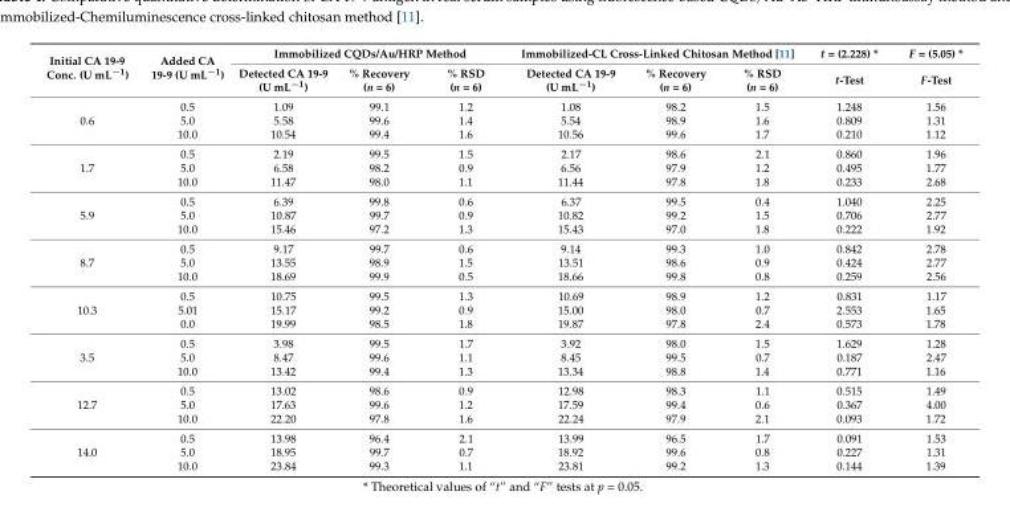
<table><thead><tr><td rowspan="2">Initial CA 19-9 Conc. (U mL−1)</td><td rowspan="2">Added CA 19-9 (U mL−1)</td><td colspan="3">Immobilized CQDs/Au/HRP Method</td><td colspan="3">Immobilized-CL Cross-Linked Chitosan Method [11]</td><td rowspan="2">t = (2.228) * t-Test</td><td rowspan="2">F = (5.05) * F-Test</td></tr><tr><td>Detected CA 19-9 (U mL−1)</td><td>% Recovery (n = 6)</td><td>% RSD (n = 6)</td><td>Detected CA 19-9 (U mL−1)</td><td>% Recovery (n = 6)</td><td>% RSD (n = 6)</td></tr></thead><tbody><tr><td>0.6</td><td>0.5 5.0 10.0</td><td>1.09 5.58 10.54</td><td>99.1 99.6 99.4</td><td>1.2 1.4 1.6</td><td>1.08 5.54 10.56</td><td>98.2 98.9 99.6</td><td>1.5 1.6 1.7</td><td>1.248 0.809 0.210</td><td>1.56 1.31 1.12</td></tr><tr><td>1.7</td><td>0.5 5.0 10.0</td><td>2.19 6.58 11.47</td><td>99.5 98.2 98.0</td><td>1.5 0.9 1.1</td><td>2.17 6.56 11.44</td><td>98.6 97.9 97.8</td><td>2.1 1.2 1.8</td><td>0.860 0.495 0.233</td><td>1.96 1.77 2.68</td></tr><tr><td>5.9</td><td>0.5 5.0 10.0</td><td>6.39 10.87 15.46</td><td>99.8 99.7 97.2</td><td>0.6 0.9 1.3</td><td>6.37 10.82 15.43</td><td>99.5 99.2 97.0</td><td>0.4 1.5 1.8</td><td>1.040 0.706 0.222</td><td>2.25 2.77 1.92</td></tr><tr><td>8.7</td><td>0.5 5.0 10.0</td><td>9.17 13.55 18.69</td><td>99.7 98.9 99.9</td><td>0.6 1.5 0.5</td><td>9.14 13.51 18.66</td><td>99.3 98.6 99.8</td><td>1.0 0.9 0.8</td><td>0.842 0.424 0.259</td><td>2.78 2.77 2.56</td></tr><tr><td>10.3</td><td>0.5 5.01 0.0</td><td>10.75 15.17 19.99</td><td>99.5 99.2 98.5</td><td>1.3 0.9 1.8</td><td>10.69 15.00 19.87</td><td>98.9 98.0 97.8</td><td>1.2 0.7 2.4</td><td>0.831 2.553 0.573</td><td>1.17 1.65 1.78</td></tr><tr><td>3.5</td><td>0.5 5.0 10.0</td><td>3.98 8.47 13.42</td><td>99.5 99.6 99.4</td><td>1.7 1.1 1.3</td><td>3.92 8.45 13.34</td><td>98.0 99.5 98.8</td><td>1.5 0.7 1.4</td><td>1.629 0.187 0.771</td><td>1.28 2.47 1.16</td></tr><tr><td>12.7</td><td>0.5 5.0 10.0</td><td>13.02 17.63 22.20</td><td>98.6 99.6 97.8</td><td>0.9 1.2 1.6</td><td>12.98 17.59 22.24</td><td>98.3 99.4 97.9</td><td>1.1 0.6 2.1</td><td>0.515 0.367 0.093</td><td>1.49 4.00 1.72</td></tr><tr><td>14.0</td><td>0.5 5.0 10.0</td><td>13.98 18.95 23.84</td><td>96.4 99.7 99.3</td><td>2.1 0.7 1.1</td><td>13.99 18.92 23.81</td><td>96.5 99.6 99.2</td><td>1.7 0.8 1.3</td><td>0.091 0.227 0.144</td><td>1.53 1.31 1.39</td></tr></tbody></table>